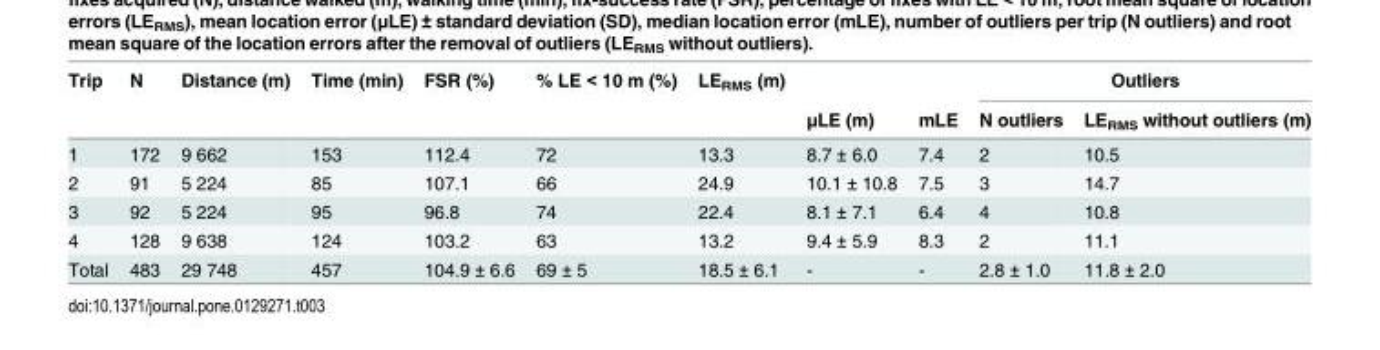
<table><thead><tr><td rowspan="2">Trip</td><td rowspan="2">N</td><td rowspan="2">Distance (m)</td><td rowspan="2">Time (min)</td><td rowspan="2">FSR (%)</td><td rowspan="2">% LE &lt; 10 m (%)</td><td rowspan="2">LE<sub>RMS</sub> (m)</td><td rowspan="2">μLE (m)</td><td rowspan="2">mLE</td><td colspan="2">Outliers</td></tr><tr><td>N outliers</td><td>LE<sub>RMS</sub> without outliers (m)</td></tr></thead><tbody><tr><td>1</td><td>172</td><td>9 662</td><td>153</td><td>112.4</td><td>72</td><td>13.3</td><td>8.7 ± 6.0</td><td>7.4</td><td>2</td><td>10.5</td></tr><tr><td>2</td><td>91</td><td>5 224</td><td>85</td><td>107.1</td><td>66</td><td>24.9</td><td>10.1 ± 10.8</td><td>7.5</td><td>3</td><td>14.7</td></tr><tr><td>3</td><td>92</td><td>5 224</td><td>95</td><td>96.8</td><td>74</td><td>22.4</td><td>8.1 ± 7.1</td><td>6.4</td><td>4</td><td>10.8</td></tr><tr><td>4</td><td>128</td><td>9 638</td><td>124</td><td>103.2</td><td>63</td><td>13.2</td><td>9.4 ± 5.9</td><td>8.3</td><td>2</td><td>11.1</td></tr><tr><td>Total</td><td>483</td><td>29 748</td><td>457</td><td>104.9 ± 6.6</td><td>69 ± 5</td><td>18.5 ± 6.1</td><td>-</td><td>-</td><td>2.8 ± 1.0</td><td>11.8 ± 2.0</td></tr></tbody></table>